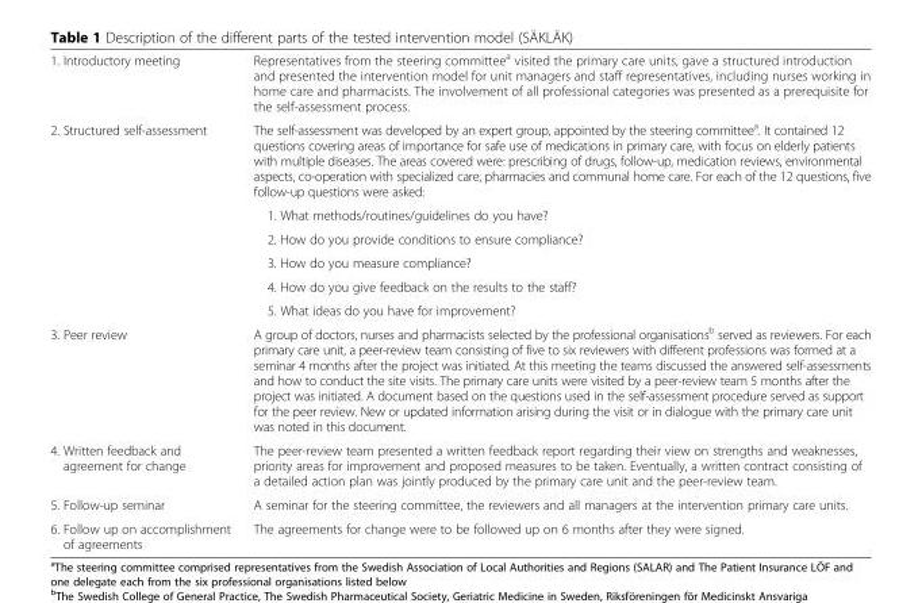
<table><tbody><tr><td>1. Introductory meeting</td><td>Representatives from the steering committee<sup>a</sup> visited the primary care units, gave a structured introduction and presented the intervention model for unit managers and staff representatives, including nurses working in home care and pharmacists. The involvement of all professional categories was presented as a prerequisite for the self-assessment process.</td></tr><tr><td rowspan="6">2. Structured self-assessment</td><td>The self-assessment was developed by an expert group, appointed by the steering committee<sup>a</sup>. It contained 12 questions covering areas of importance for safe use of medications in primary care, with focus on elderly patients with multiple diseases. The areas covered were: prescribing of drugs, follow-up, medication reviews, environmental aspects, co-operation with specialized care, pharmacies and communal home care. For each of the 12 questions, five follow-up questions were asked:</td></tr><tr><td>1. What methods/routines/guidelines do you have?</td></tr><tr><td>2. How do you provide conditions to ensure compliance?</td></tr><tr><td>3. How do you measure compliance?</td></tr><tr><td>4. How do you give feedback on the results to the staff?</td></tr><tr><td>5. What ideas do you have for improvement?</td></tr><tr><td>3. Peer review</td><td>A group of doctors, nurses and pharmacists selected by the professional organisations<sup>b</sup> served as reviewers. For each primary care unit, a peer-review team consisting of five to six reviewers with different professions was formed at a seminar 4 months after the project was initiated. At this meeting the teams discussed the answered self-assessments and how to conduct the site visits. The primary care units were visited by a peer-review team 5 months after the project was initiated. A document based on the questions used in the self-assessment procedure served as support for the peer review. New or updated information arising during the visit or in dialogue with the primary care unit was noted in this document.</td></tr><tr><td>4. Written feedback and agreement for change</td><td>The peer-review team presented a written feedback report regarding their view on strengths and weaknesses, priority areas for improvement and proposed measures to be taken. Eventually, a written contract consisting of a detailed action plan was jointly produced by the primary care unit and the peer-review team.</td></tr><tr><td>5. Follow-up seminar</td><td>A seminar for the steering committee, the reviewers and all managers at the intervention primary care units.</td></tr><tr><td>6. Follow up on accomplishment of agreements</td><td>The agreements for change were to be followed up on 6 months after they were signed.</td></tr></tbody></table>